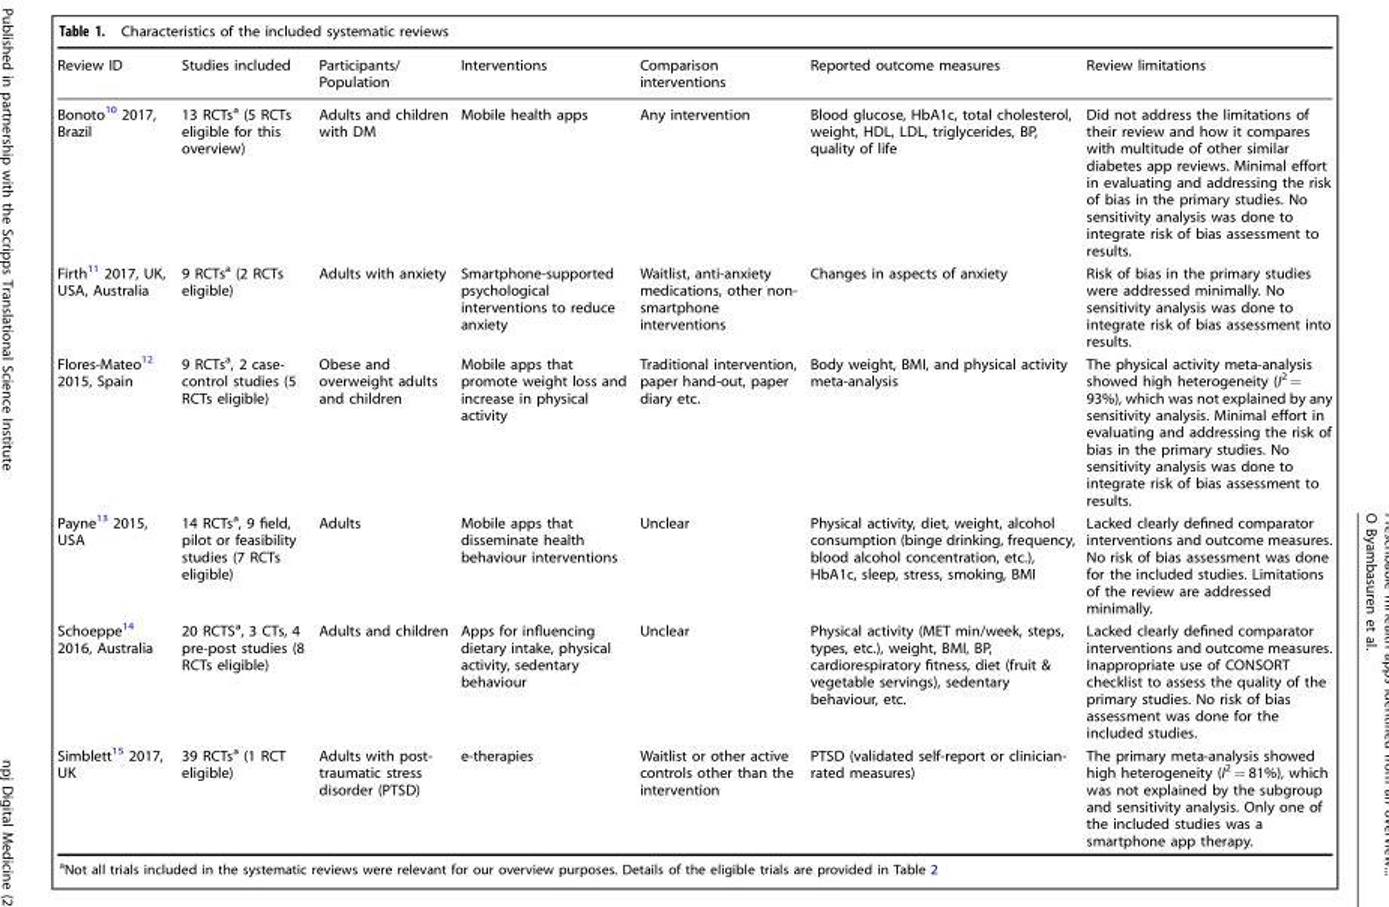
<table><thead><tr><td>Review ID</td><td>Studies included</td><td>Participants/ Population</td><td>Interventions</td><td>Comparison interventions</td><td>Reported outcome measures</td><td>Review limitations</td></tr></thead><tbody><tr><td>Bonoto<sup>10</sup> 2017, Brazil</td><td>13 RCTs<sup>a</sup> (5 RCTs eligible for this overview)</td><td>Adults and children with DM</td><td>Mobile health apps</td><td>Any intervention</td><td>Blood glucose, HbA1c, total cholesterol, weight, HDL, LDL, triglycerides, BP, quality of life</td><td>Did not address the limitations of their review and how it compares with multitude of other similar diabetes app reviews. Minimal effort in evaluating and addressing the risk of bias in the primary studies. No sensitivity analysis was done to integrate risk of bias assessment to results.</td></tr><tr><td>Firth<sup>11</sup> 2017, UK, USA, Australia</td><td>9 RCTs<sup>a</sup> (2 RCTs eligible)</td><td>Adults with anxiety</td><td>Smartphone-supported psychological interventions to reduce anxiety</td><td>Waitlist, anti-anxiety medications, other non- smartphone interventions</td><td>Changes in aspects of anxiety</td><td>Risk of bias in the primary studies were addressed minimally. No sensitivity analysis was done to integrate risk of bias assessment into results.</td></tr><tr><td>Flores-Mateo<sup>12</sup> 2015, Spain</td><td>9 RCTs<sup>a</sup>, 2 case- control studies (5 RCTs eligible)</td><td>Obese and overweight adults and children</td><td>Mobile apps that promote weight loss and increase in physical activity</td><td>Traditional intervention, paper hand-out, paper diary etc.</td><td>Body weight, BMI, and physical activity meta-analysis</td><td>The physical activity meta-analysis showed high heterogeneity (I<sup>2</sup> = 93%), which was not explained by any sensitivity analysis. Minimal effort in evaluating and addressing the risk of bias in the primary studies. No sensitivity analysis was done to integrate risk of bias assessment to results.</td></tr><tr><td>Payne<sup>13</sup> 2015, USA</td><td>14 RCTs<sup>a</sup>, 9 field, pilot or feasibility studies (7 RCTs eligible)</td><td>Adults</td><td>Mobile apps that disseminate health behaviour interventions</td><td>Unclear</td><td>Physical activity, diet, weight, alcohol consumption (binge drinking, frequency, blood alcohol concentration, etc.), HbA1c, sleep, stress, smoking, BMI</td><td>Lacked clearly defined comparator interventions and outcome measures. No risk of bias assessment was done for the included studies. Limitations of the review are addressed minimally.</td></tr><tr><td>Schoeppe<sup>14</sup> 2016, Australia</td><td>20 RCTS<sup>a</sup>, 3 CTs, 4 pre-post studies (8 RCTs eligible)</td><td>Adults and children</td><td>Apps for influencing dietary intake, physical activity, sedentary behaviour</td><td>Unclear</td><td>Physical activity (MET min/week, steps, types, etc.), weight, BMI, BP, cardiorespiratory fitness, diet (fruit &amp; vegetable servings), sedentary behaviour, etc.</td><td>Lacked clearly defined comparator interventions and outcome measures. Inappropriate use of CONSORT checklist to assess the quality of the primary studies. No risk of bias assessment was done for the included studies.</td></tr><tr><td>Simblett<sup>15</sup> 2017, UK</td><td>39 RCTs<sup>a</sup> (1 RCT eligible)</td><td>Adults with post- traumatic stress disorder (PTSD)</td><td>e-therapies</td><td>Waitlist or other active controls other than the intervention</td><td>PTSD (validated self-report or clinician- rated measures)</td><td>The primary meta-analysis showed high heterogeneity (I<sup>2</sup> = 81%), which was not explained by the subgroup and sensitivity analysis. Only one of the included studies was a smartphone app therapy.</td></tr></tbody></table>